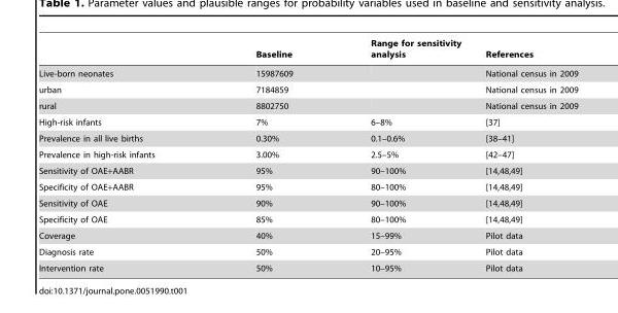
<table><thead><tr><td></td><td>Baseline</td><td>Range for sensitivity analysis</td><td>References</td></tr></thead><tbody><tr><td>Live-born neonates</td><td>15987609</td><td></td><td>National census in 2009</td></tr><tr><td>urban</td><td>7184859</td><td></td><td>National census in 2009</td></tr><tr><td>rural</td><td>8802750</td><td></td><td>National census in 2009</td></tr><tr><td>High-risk infants</td><td>7%</td><td>6–8%</td><td>[37]</td></tr><tr><td>Prevalence in all live births</td><td>0.30%</td><td>0.1–0.6%</td><td>[38–41]</td></tr><tr><td>Prevalence in high-risk infants</td><td>3.00%</td><td>2.5–5%</td><td>[42–47]</td></tr><tr><td>Sensitivity of OAE+AABR</td><td>95%</td><td>90–100%</td><td>[14,48,49]</td></tr><tr><td>Specificity of OAE+AABR</td><td>95%</td><td>80–100%</td><td>[14,48,49]</td></tr><tr><td>Sensitivity of OAE</td><td>90%</td><td>90–100%</td><td>[14,48,49]</td></tr><tr><td>Specificity of OAE</td><td>85%</td><td>80–100%</td><td>[14,48,49]</td></tr><tr><td>Coverage</td><td>40%</td><td>15–99%</td><td>Pilot data</td></tr><tr><td>Diagnosis rate</td><td>50%</td><td>20–95%</td><td>Pilot data</td></tr><tr><td>Intervention rate</td><td>50%</td><td>10–95%</td><td>Pilot data</td></tr></tbody></table>